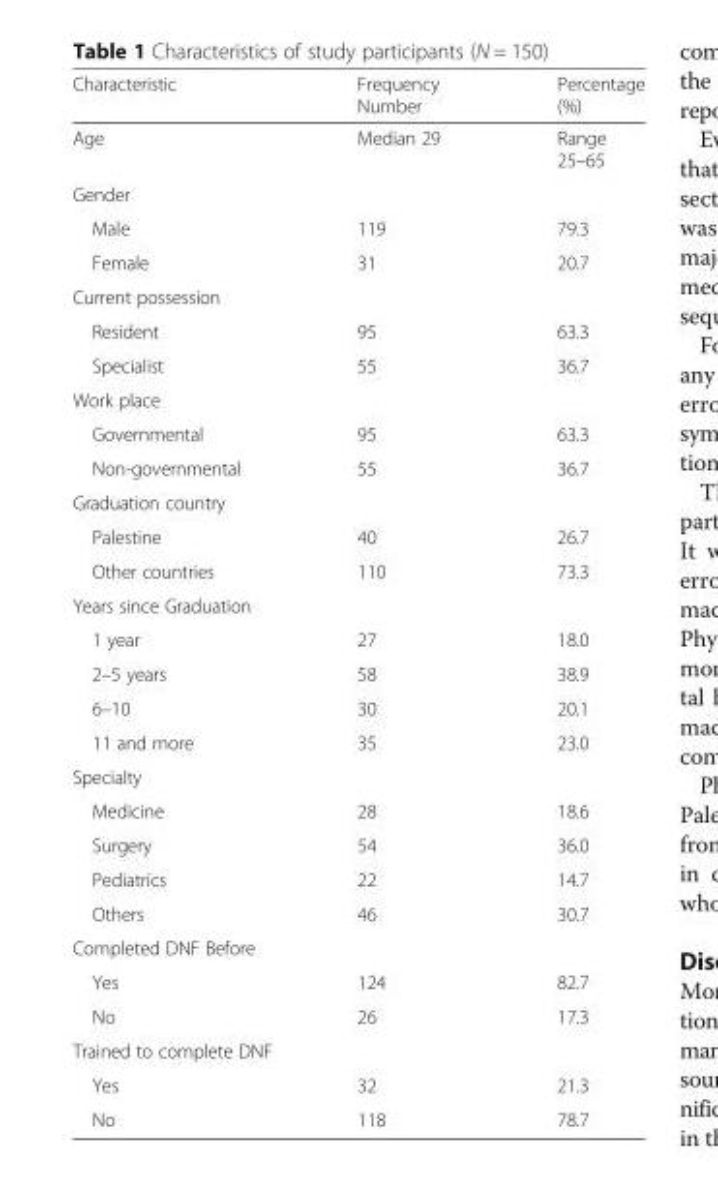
<table><thead><tr><td>Characteristic</td><td>Frequency Number</td><td>Percentage (%)</td></tr></thead><tbody><tr><td>Age</td><td>Median 29</td><td>Range 25–65</td></tr><tr><td colspan="3">Gender</td></tr><tr><td>Male</td><td>119</td><td>79.3</td></tr><tr><td>Female</td><td>31</td><td>20.7</td></tr><tr><td colspan="3">Current possession</td></tr><tr><td>Resident</td><td>95</td><td>63.3</td></tr><tr><td>Specialist</td><td>55</td><td>36.7</td></tr><tr><td colspan="3">Work place</td></tr><tr><td>Governmental</td><td>95</td><td>63.3</td></tr><tr><td>Non-governmental</td><td>55</td><td>36.7</td></tr><tr><td colspan="3">Graduation country</td></tr><tr><td>Palestine</td><td>40</td><td>26.7</td></tr><tr><td>Other countries</td><td>110</td><td>73.3</td></tr><tr><td colspan="3">Years since Graduation</td></tr><tr><td>1 year</td><td>27</td><td>18.0</td></tr><tr><td>2–5 years</td><td>58</td><td>38.9</td></tr><tr><td>6–10</td><td>30</td><td>20.1</td></tr><tr><td>11 and more</td><td>35</td><td>23.0</td></tr><tr><td colspan="3">Specialty</td></tr><tr><td>Medicine</td><td>28</td><td>18.6</td></tr><tr><td>Surgery</td><td>54</td><td>36.0</td></tr><tr><td>Pediatrics</td><td>22</td><td>14.7</td></tr><tr><td>Others</td><td>46</td><td>30.7</td></tr><tr><td colspan="3">Completed DNF Before</td></tr><tr><td>Yes</td><td>124</td><td>82.7</td></tr><tr><td>No</td><td>26</td><td>17.3</td></tr><tr><td colspan="3">Trained to complete DNF</td></tr><tr><td>Yes</td><td>32</td><td>21.3</td></tr><tr><td>No</td><td>118</td><td>78.7</td></tr></tbody></table>